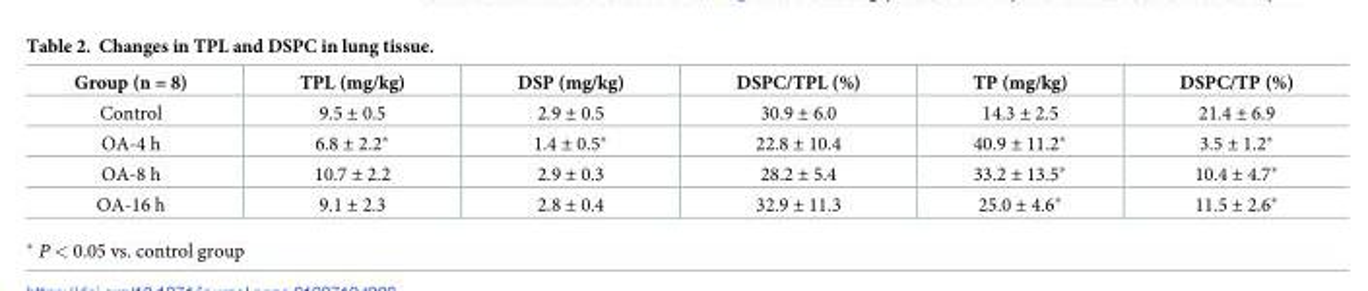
<table><thead><tr><td>Group (n = 8)</td><td>TPL (mg/kg)</td><td>DSP (mg/kg)</td><td>DSPC/TPL (%)</td><td>TP (mg/kg)</td><td>DSPC/TP (%)</td></tr></thead><tbody><tr><td>Control</td><td>9.5 ± 0.5</td><td>2.9 ± 0.5</td><td>30.9 ± 6.0</td><td>14.3 ± 2.5</td><td>21.4 ± 6.9</td></tr><tr><td>OA-4 h</td><td>6.8 ± 2.2*</td><td>1.4 ± 0.5*</td><td>22.8 ± 10.4</td><td>40.9 ± 11.2*</td><td>3.5 ± 1.2*</td></tr><tr><td>OA-8 h</td><td>10.7 ± 2.2</td><td>2.9 ± 0.3</td><td>28.2 ± 5.4</td><td>33.2 ± 13.5*</td><td>10.4 ± 4.7*</td></tr><tr><td>OA-16 h</td><td>9.1 ± 2.3</td><td>2.8 ± 0.4</td><td>32.9 ± 11.3</td><td>25.0 ± 4.6*</td><td>11.5 ± 2.6*</td></tr></tbody></table>